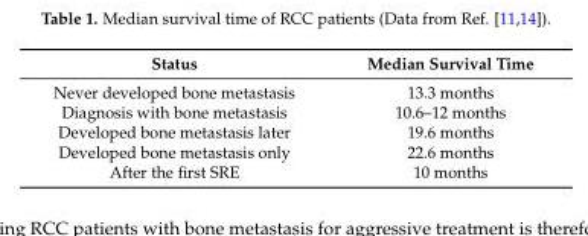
<table><thead><tr><td>Status</td><td>Median Survival Time</td></tr></thead><tbody><tr><td>Never developed bone metastasis</td><td>13.3 months</td></tr><tr><td>Diagnosis with bone metastasis</td><td>10.6–12 months</td></tr><tr><td>Developed bone metastasis later</td><td>19.6 months</td></tr><tr><td>Developed bone metastasis only</td><td>22.6 months</td></tr><tr><td>After the first SRE</td><td>10 months</td></tr></tbody></table>